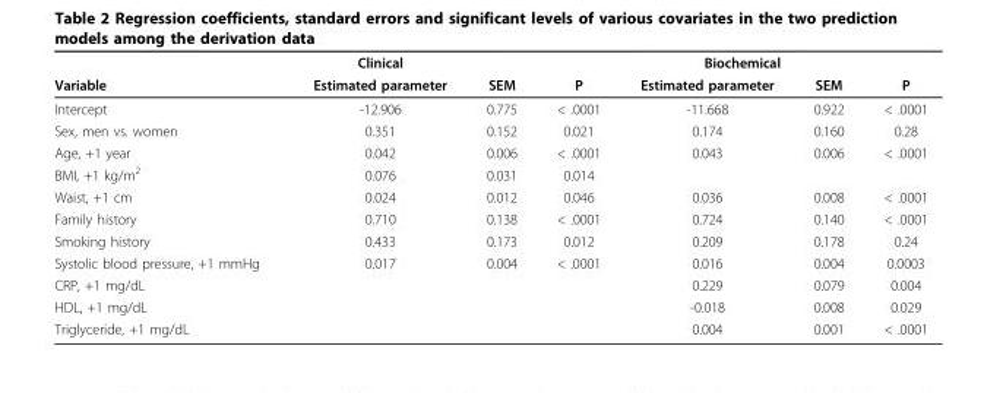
<table><thead><tr><td rowspan="2">Variable</td><td rowspan="2">Clinical Estimated parameter</td><td rowspan="2">SEM</td><td rowspan="2">P</td><td colspan="2">Biochemical</td><td rowspan="2">P</td></tr><tr><td>Estimated parameter</td><td>SEM</td></tr></thead><tbody><tr><td>Intercept</td><td>-12.906</td><td>0.775</td><td>&lt; .0001</td><td>-11.668</td><td>0.922</td><td>&lt; .0001</td></tr><tr><td>Sex, men vs. women</td><td>0.351</td><td>0.152</td><td>0.021</td><td>0.174</td><td>0.160</td><td>0.28</td></tr><tr><td>Age, +1 year</td><td>0.042</td><td>0.006</td><td>&lt; .0001</td><td>0.043</td><td>0.006</td><td>&lt; .0001</td></tr><tr><td>BMI, +1 kg/m<sup>2</sup></td><td>0.076</td><td>0.031</td><td>0.014</td><td></td><td></td><td></td></tr><tr><td>Waist, +1 cm</td><td>0.024</td><td>0.012</td><td>0.046</td><td>0.036</td><td>0.008</td><td>&lt; .0001</td></tr><tr><td>Family history</td><td>0.710</td><td>0.138</td><td>&lt; .0001</td><td>0.724</td><td>0.140</td><td>&lt; .0001</td></tr><tr><td>Smoking history</td><td>0.433</td><td>0.173</td><td>0.012</td><td>0.209</td><td>0.178</td><td>0.24</td></tr><tr><td>Systolic blood pressure, +1 mmHg</td><td>0.017</td><td>0.004</td><td>&lt; .0001</td><td>0.016</td><td>0.004</td><td>0.0003</td></tr><tr><td>CRP, +1 mg/dL</td><td></td><td></td><td></td><td>0.229</td><td>0.079</td><td>0.004</td></tr><tr><td>HDL, +1 mg/dL</td><td></td><td></td><td></td><td>-0.018</td><td>0.008</td><td>0.029</td></tr><tr><td>Triglyceride, +1 mg/dL</td><td></td><td></td><td></td><td>0.004</td><td>0.001</td><td>&lt; .0001</td></tr></tbody></table>